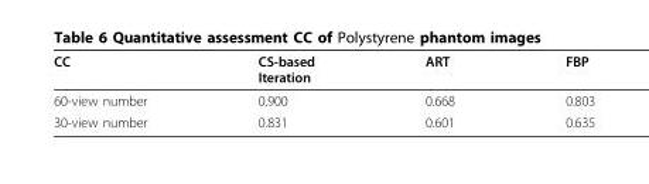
<table><thead><tr><td>CC</td><td>CS-based Iteration</td><td>ART</td><td>FBP</td></tr></thead><tbody><tr><td>60-view number</td><td>0.900</td><td>0.668</td><td>0.803</td></tr><tr><td>30-view number</td><td>0.831</td><td>0.601</td><td>0.635</td></tr></tbody></table>